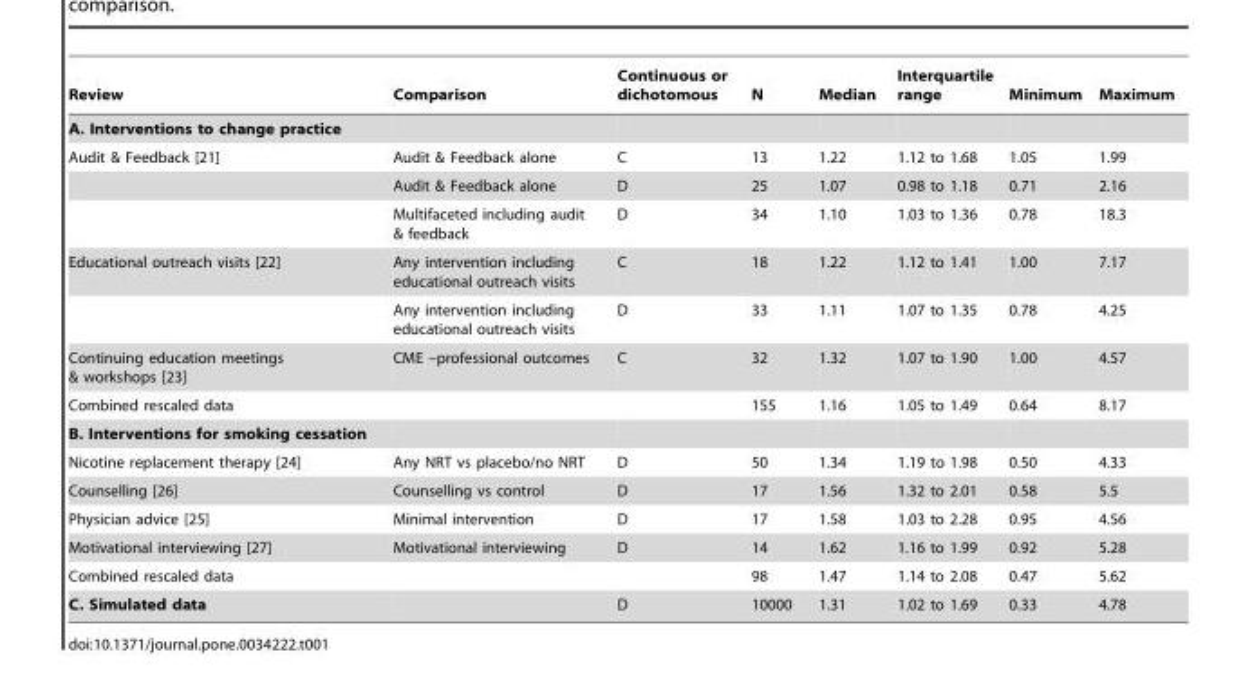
<table><thead><tr><td>Review</td><td>Comparison</td><td>Continuous or dichotomous</td><td>N</td><td>Median</td><td>Interquartile range</td><td>Minimum</td><td>Maximum</td></tr></thead><tbody><tr><td colspan="8">A. Interventions to change practice</td></tr><tr><td rowspan="3">Audit &amp; Feedback [21]</td><td>Audit &amp; Feedback alone</td><td>C</td><td>13</td><td>1.22</td><td>1.12 to 1.68</td><td>1.05</td><td>1.99</td></tr><tr><td>Audit &amp; Feedback alone</td><td>D</td><td>25</td><td>1.07</td><td>0.98 to 1.18</td><td>0.71</td><td>2.16</td></tr><tr><td>Multifaceted including audit &amp; feedback</td><td>D</td><td>34</td><td>1.10</td><td>1.03 to 1.36</td><td>0.78</td><td>18.3</td></tr><tr><td rowspan="2">Educational outreach visits [22]</td><td>Any intervention including educational outreach visits</td><td>C</td><td>18</td><td>1.22</td><td>1.12 to 1.41</td><td>1.00</td><td>7.17</td></tr><tr><td>Any intervention including educational outreach visits</td><td>D</td><td>33</td><td>1.11</td><td>1.07 to 1.35</td><td>0.78</td><td>4.25</td></tr><tr><td>Continuing education meetings &amp; workshops [23]</td><td>CME –professional outcomes</td><td>C</td><td>32</td><td>1.32</td><td>1.07 to 1.90</td><td>1.00</td><td>4.57</td></tr><tr><td>Combined rescaled data</td><td></td><td></td><td>155</td><td>1.16</td><td>1.05 to 1.49</td><td>0.64</td><td>8.17</td></tr><tr><td colspan="8">B. Interventions for smoking cessation</td></tr><tr><td>Nicotine replacement therapy [24]</td><td>Any NRT vs placebo/no NRT</td><td>D</td><td>50</td><td>1.34</td><td>1.19 to 1.98</td><td>0.50</td><td>4.33</td></tr><tr><td>Counselling [26]</td><td>Counselling vs control</td><td>D</td><td>17</td><td>1.56</td><td>1.32 to 2.01</td><td>0.58</td><td>5.5</td></tr><tr><td>Physician advice [25]</td><td>Minimal intervention</td><td>D</td><td>17</td><td>1.58</td><td>1.03 to 2.28</td><td>0.95</td><td>4.56</td></tr><tr><td>Motivational interviewing [27]</td><td>Motivational interviewing</td><td>D</td><td>14</td><td>1.62</td><td>1.16 to 1.99</td><td>0.92</td><td>5.28</td></tr><tr><td>Combined rescaled data</td><td></td><td></td><td>98</td><td>1.47</td><td>1.14 to 2.08</td><td>0.47</td><td>5.62</td></tr><tr><td>C. Simulated data</td><td></td><td>D</td><td>10000</td><td>1.31</td><td>1.02 to 1.69</td><td>0.33</td><td>4.78</td></tr></tbody></table>